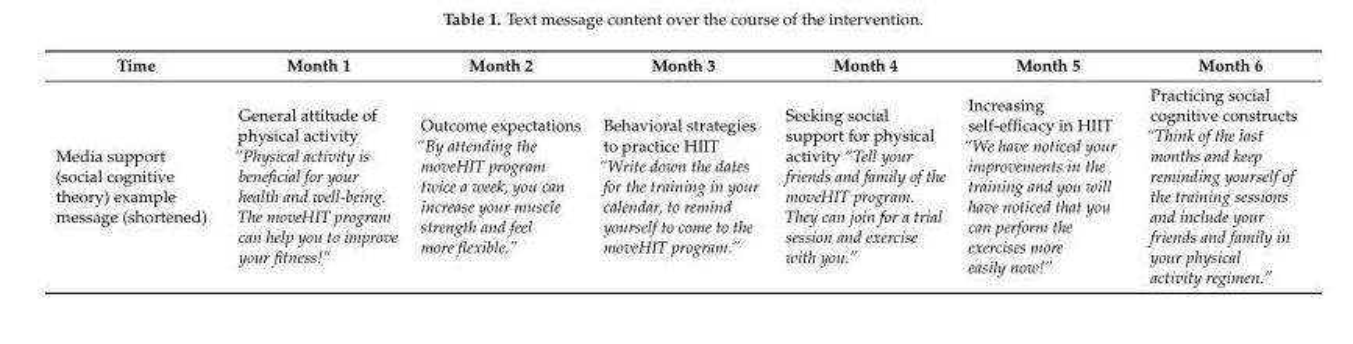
<table><thead><tr><td>Time</td><td>Month 1</td><td>Month 2</td><td>Month 3</td><td>Month 4</td><td>Month 5</td><td>Month 6</td></tr></thead><tbody><tr><td>Media support (social cognitive theory) example message (shortened)</td><td>General attitude of physical activity “Physical activity is beneficial for your health and well-being. The moveHIT program can help you to improve your fitness!”</td><td>Outcome expectations “By attending the moveHIT program twice a week, you can increase your muscle strength and feel more flexible.”</td><td>Behavioral strategies to practice HIIT “Write down the dates for the training in your calendar, to remind yourself to come to the moveHIT program.”</td><td>Seeking social support for physical activity “Tell your friends and family of the moveHIT program. They can join for a trial session and exercise with you.”</td><td>Increasing self-efficacy in HIIT “We have noticed your improvements in the training and you will have noticed that you can perform the exercises more easily now!”</td><td>Practicing social cognitive constructs “Think of the last months and keep reminding yourself of the training sessions and include your friends and family in your physical activity regimen.”</td></tr></tbody></table>